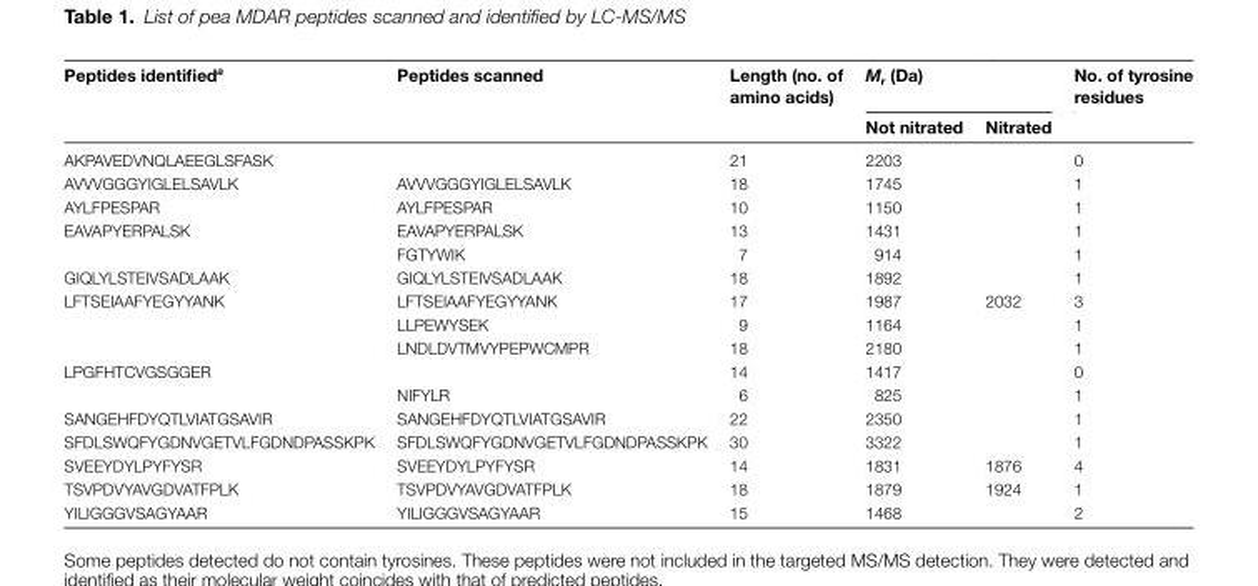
<table><thead><tr><td rowspan="2">Peptides identified<sup>a</sup></td><td rowspan="2">Peptides scanned</td><td rowspan="2">Length (no. of amino acids)</td><td colspan="2">M<sub>r</sub> (Da)</td><td rowspan="2">No. of tyrosine residues</td></tr><tr><td>Not nitrated</td><td>Nitrated</td></tr></thead><tbody><tr><td>AKPAVEDVNQLAEEGLSFASK</td><td></td><td>21</td><td>2203</td><td></td><td>0</td></tr><tr><td>AVVVGGGYIGLELSAVLK</td><td>AVVVGGGYIGLELSAVLK</td><td>18</td><td>1745</td><td></td><td>1</td></tr><tr><td>AYLFPESPAR</td><td>AYLFPESPAR</td><td>10</td><td>1150</td><td></td><td>1</td></tr><tr><td rowspan="2">EAVAPYERPALSK</td><td>EAVAPYERPALSK</td><td>13</td><td>1431</td><td></td><td>1</td></tr><tr><td>FGTYWIK</td><td>7</td><td>914</td><td></td><td>1</td></tr><tr><td>GIQLYLSTEIVSADLAAK</td><td>GIQLYLSTEIVSADLAAK</td><td>18</td><td>1892</td><td></td><td>1</td></tr><tr><td rowspan="3">LFTSEIAAFYEGYYANK</td><td>LFTSEIAAFYEGYYANK</td><td>17</td><td>1987</td><td>2032</td><td>3</td></tr><tr><td>LLPEWYSEK</td><td>9</td><td>1164</td><td></td><td>1</td></tr><tr><td>LNDLDVTMVYPEPWCMPR</td><td>18</td><td>2180</td><td></td><td>1</td></tr><tr><td rowspan="2">LPGFHTCVGSGGER</td><td></td><td>14</td><td>1417</td><td></td><td>0</td></tr><tr><td>NIFYLR</td><td>6</td><td>825</td><td></td><td>1</td></tr><tr><td>SANGEHFDYQTLVIATGSAVIR</td><td>SANGEHFDYQTLVIATGSAVIR</td><td>22</td><td>2350</td><td></td><td>1</td></tr><tr><td>SFDLSWQFYGDNVGETVLFGDNDPASSKPK</td><td>SFDLSWQFYGDNVGETVLFGDNDPASSKPK</td><td>30</td><td>3322</td><td></td><td>1</td></tr><tr><td>SVEEYDYLPYFYSR</td><td>SVEEYDYLPYFYSR</td><td>14</td><td>1831</td><td>1876</td><td>4</td></tr><tr><td>TSVPDVYAVGDVATFPLK</td><td>TSVPDVYAVGDVATFPLK</td><td>18</td><td>1879</td><td>1924</td><td>1</td></tr><tr><td>YILIGGGVSAGYAAR</td><td>YILIGGGVSAGYAAR</td><td>15</td><td>1468</td><td></td><td>2</td></tr></tbody></table>